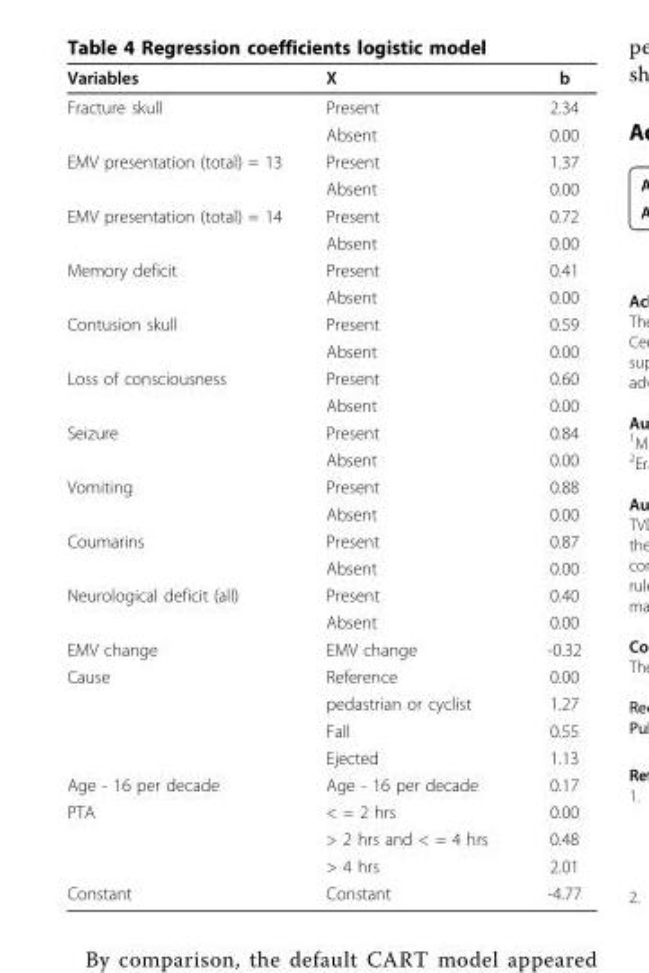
<table><thead><tr><td>Variables</td><td>X</td><td>b</td></tr></thead><tbody><tr><td rowspan="2">Fracture skull</td><td>Present</td><td>2.34</td></tr><tr><td>Absent</td><td>0.00</td></tr><tr><td rowspan="2">EMV presentation (total) = 13</td><td>Present</td><td>1.37</td></tr><tr><td>Absent</td><td>0.00</td></tr><tr><td rowspan="2">EMV presentation (total) = 14</td><td>Present</td><td>0.72</td></tr><tr><td>Absent</td><td>0.00</td></tr><tr><td rowspan="2">Memory deficit</td><td>Present</td><td>0.41</td></tr><tr><td>Absent</td><td>0.00</td></tr><tr><td rowspan="2">Contusion skull</td><td>Present</td><td>0.59</td></tr><tr><td>Absent</td><td>0.00</td></tr><tr><td rowspan="2">Loss of consciousness</td><td>Present</td><td>0.60</td></tr><tr><td>Absent</td><td>0.00</td></tr><tr><td rowspan="2">Seizure</td><td>Present</td><td>0.84</td></tr><tr><td>Absent</td><td>0.00</td></tr><tr><td rowspan="2">Vomiting</td><td>Present</td><td>0.88</td></tr><tr><td>Absent</td><td>0.00</td></tr><tr><td rowspan="2">Coumarins</td><td>Present</td><td>0.87</td></tr><tr><td>Absent</td><td>0.00</td></tr><tr><td rowspan="2">Neurological deficit (all)</td><td>Present</td><td>0.40</td></tr><tr><td>Absent</td><td>0.00</td></tr><tr><td>EMV change</td><td>EMV change</td><td>-0.32</td></tr><tr><td rowspan="4">Cause</td><td>Reference</td><td>0.00</td></tr><tr><td>pedastrian or cyclist</td><td>1.27</td></tr><tr><td>Fall</td><td>0.55</td></tr><tr><td>Ejected</td><td>1.13</td></tr><tr><td>Age - 16 per decade</td><td>Age - 16 per decade</td><td>0.17</td></tr><tr><td rowspan="3">PTA</td><td>&lt; = 2 hrs</td><td>0.00</td></tr><tr><td>&gt; 2 hrs and &lt; = 4 hrs</td><td>0.48</td></tr><tr><td>&gt; 4 hrs</td><td>2.01</td></tr><tr><td>Constant</td><td>Constant</td><td>-4.77</td></tr></tbody></table>